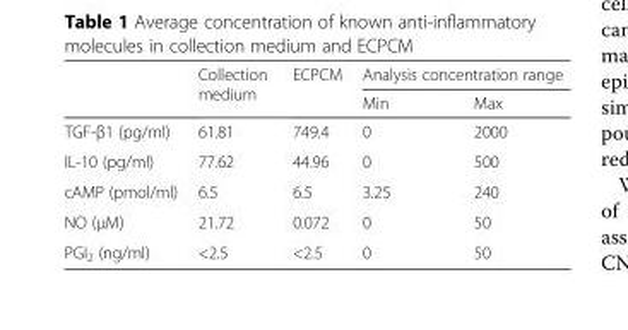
<table><thead><tr><td rowspan="2"></td><td rowspan="2">Collection medium</td><td rowspan="2">ECPCM</td><td colspan="2">Analysis concentration range</td></tr><tr><td>Min</td><td>Max</td></tr></thead><tbody><tr><td>TGF-β1 (pg/ml)</td><td>61.81</td><td>749.4</td><td>0</td><td>2000</td></tr><tr><td>IL-10 (pg/ml)</td><td>77.62</td><td>44.96</td><td>0</td><td>500</td></tr><tr><td>cAMP (pmol/ml)</td><td>6.5</td><td>6.5</td><td>3.25</td><td>240</td></tr><tr><td>NO (μM)</td><td>21.72</td><td>0.072</td><td>0</td><td>50</td></tr><tr><td>PGI<sub>2</sub> (ng/ml)</td><td>&lt;2.5</td><td>&lt;2.5</td><td>0</td><td>50</td></tr></tbody></table>